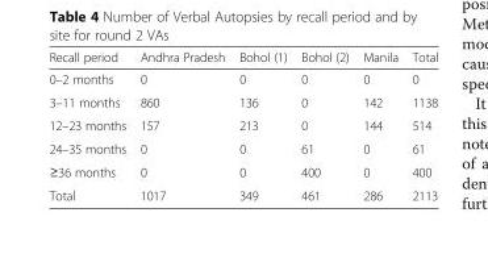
<table><thead><tr><td>Recall period</td><td>Andhra Pradesh</td><td>Bohol (1)</td><td>Bohol (2)</td><td>Manila</td><td>Total</td></tr></thead><tbody><tr><td>0–2 months</td><td>0</td><td>0</td><td>0</td><td>0</td><td>0</td></tr><tr><td>3–11 months</td><td>860</td><td>136</td><td>0</td><td>142</td><td>1138</td></tr><tr><td>12–23 months</td><td>157</td><td>213</td><td>0</td><td>144</td><td>514</td></tr><tr><td>24–35 months</td><td>0</td><td>0</td><td>61</td><td>0</td><td>61</td></tr><tr><td>≥36 months</td><td>0</td><td>0</td><td>400</td><td>0</td><td>400</td></tr><tr><td>Total</td><td>1017</td><td>349</td><td>461</td><td>286</td><td>2113</td></tr></tbody></table>